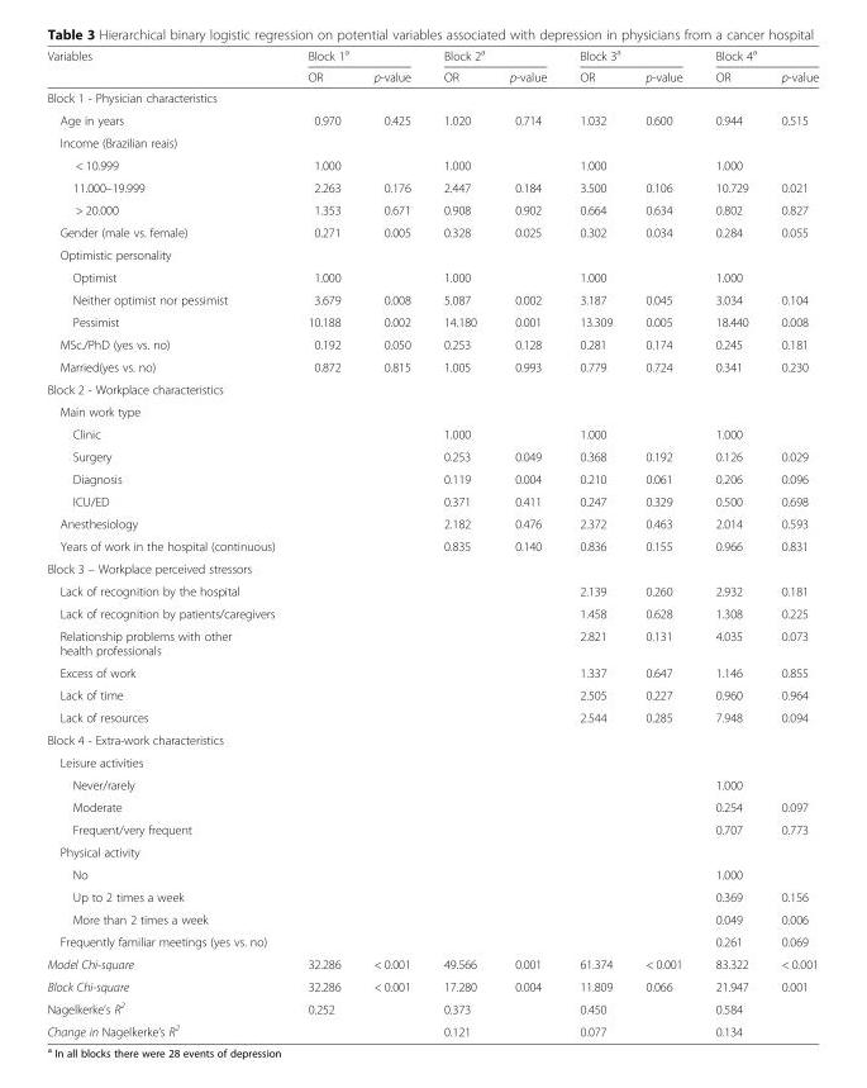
<table><thead><tr><td rowspan="2">Variables</td><td colspan="2">Block 1<sup>a</sup></td><td colspan="2">Block 2<sup>a</sup></td><td colspan="2">Block 3<sup>a</sup></td><td colspan="2">Block 4<sup>a</sup></td></tr><tr><td>OR</td><td>p-value</td><td>OR</td><td>p-value</td><td>OR</td><td>p-value</td><td>OR</td><td>p-value</td></tr></thead><tbody><tr><td colspan="9">Block 1 - Physician characteristics</td></tr><tr><td>Age in years</td><td>0.970</td><td>0.425</td><td>1.020</td><td>0.714</td><td>1.032</td><td>0.600</td><td>0.944</td><td>0.515</td></tr><tr><td colspan="9">Income (Brazilian reais)</td></tr><tr><td>&lt; 10.999</td><td>1.000</td><td></td><td>1.000</td><td></td><td>1.000</td><td></td><td>1.000</td><td></td></tr><tr><td>11.000–19.999</td><td>2.263</td><td>0.176</td><td>2.447</td><td>0.184</td><td>3.500</td><td>0.106</td><td>10.729</td><td>0.021</td></tr><tr><td>&gt; 20.000</td><td>1.353</td><td>0.671</td><td>0.908</td><td>0.902</td><td>0.664</td><td>0.634</td><td>0.802</td><td>0.827</td></tr><tr><td>Gender (male vs. female)</td><td>0.271</td><td>0.005</td><td>0.328</td><td>0.025</td><td>0.302</td><td>0.034</td><td>0.284</td><td>0.055</td></tr><tr><td colspan="9">Optimistic personality</td></tr><tr><td>Optimist</td><td>1.000</td><td></td><td>1.000</td><td></td><td>1.000</td><td></td><td>1.000</td><td></td></tr><tr><td>Neither optimist nor pessimist</td><td>3.679</td><td>0.008</td><td>5.087</td><td>0.002</td><td>3.187</td><td>0.045</td><td>3.034</td><td>0.104</td></tr><tr><td>Pessimist</td><td>10.188</td><td>0.002</td><td>14.180</td><td>0.001</td><td>13.309</td><td>0.005</td><td>18.440</td><td>0.008</td></tr><tr><td>MSc./PhD (yes vs. no)</td><td>0.192</td><td>0.050</td><td>0.253</td><td>0.128</td><td>0.281</td><td>0.174</td><td>0.245</td><td>0.181</td></tr><tr><td>Married(yes vs. no)</td><td>0.872</td><td>0.815</td><td>1.005</td><td>0.993</td><td>0.779</td><td>0.724</td><td>0.341</td><td>0.230</td></tr><tr><td colspan="9">Block 2 - Workplace characteristics</td></tr><tr><td colspan="9">Main work type</td></tr><tr><td>Clinic</td><td></td><td></td><td>1.000</td><td></td><td>1.000</td><td></td><td>1.000</td><td></td></tr><tr><td>Surgery</td><td></td><td></td><td>0.253</td><td>0.049</td><td>0.368</td><td>0.192</td><td>0.126</td><td>0.029</td></tr><tr><td>Diagnosis</td><td></td><td></td><td>0.119</td><td>0.004</td><td>0.210</td><td>0.061</td><td>0.206</td><td>0.096</td></tr><tr><td>ICU/ED</td><td></td><td></td><td>0.371</td><td>0.411</td><td>0.247</td><td>0.329</td><td>0.500</td><td>0.698</td></tr><tr><td>Anesthesiology</td><td></td><td></td><td>2.182</td><td>0.476</td><td>2.372</td><td>0.463</td><td>2.014</td><td>0.593</td></tr><tr><td>Years of work in the hospital (continuous)</td><td></td><td></td><td>0.835</td><td>0.140</td><td>0.836</td><td>0.155</td><td>0.966</td><td>0.831</td></tr><tr><td colspan="9">Block 3 – Workplace perceived stressors</td></tr><tr><td>Lack of recognition by the hospital</td><td></td><td></td><td></td><td></td><td>2.139</td><td>0.260</td><td>2.932</td><td>0.181</td></tr><tr><td>Lack of recognition by patients/caregivers</td><td></td><td></td><td></td><td></td><td>1.458</td><td>0.628</td><td>1.308</td><td>0.225</td></tr><tr><td>Relationship problems with other health professionals</td><td></td><td></td><td></td><td></td><td>2.821</td><td>0.131</td><td>4.035</td><td>0.073</td></tr><tr><td>Excess of work</td><td></td><td></td><td></td><td></td><td>1.337</td><td>0.647</td><td>1.146</td><td>0.855</td></tr><tr><td>Lack of time</td><td></td><td></td><td></td><td></td><td>2.505</td><td>0.227</td><td>0.960</td><td>0.964</td></tr><tr><td>Lack of resources</td><td></td><td></td><td></td><td></td><td>2.544</td><td>0.285</td><td>7.948</td><td>0.094</td></tr><tr><td colspan="9">Block 4 - Extra-work characteristics</td></tr><tr><td colspan="9">Leisure activities</td></tr><tr><td>Never/rarely</td><td></td><td></td><td></td><td></td><td></td><td></td><td>1.000</td><td></td></tr><tr><td>Moderate</td><td></td><td></td><td></td><td></td><td></td><td></td><td>0.254</td><td>0.097</td></tr><tr><td>Frequent/very frequent</td><td></td><td></td><td></td><td></td><td></td><td></td><td>0.707</td><td>0.773</td></tr><tr><td colspan="9">Physical activity</td></tr><tr><td>No</td><td></td><td></td><td></td><td></td><td></td><td></td><td>1.000</td><td></td></tr><tr><td>Up to 2 times a week</td><td></td><td></td><td></td><td></td><td></td><td></td><td>0.369</td><td>0.156</td></tr><tr><td>More than 2 times a week</td><td></td><td></td><td></td><td></td><td></td><td></td><td>0.049</td><td>0.006</td></tr><tr><td>Frequently familiar meetings (yes vs. no)</td><td></td><td></td><td></td><td></td><td></td><td></td><td>0.261</td><td>0.069</td></tr><tr><td>Model Chi-square</td><td>32.286</td><td>&lt; 0.001</td><td>49.566</td><td>0.001</td><td>61.374</td><td>&lt; 0.001</td><td>83.322</td><td>&lt; 0.001</td></tr><tr><td>Block Chi-square</td><td>32.286</td><td>&lt; 0.001</td><td>17.280</td><td>0.004</td><td>11.809</td><td>0.066</td><td>21.947</td><td>0.001</td></tr><tr><td>Nagelkerke’s R<sup>2</sup></td><td colspan="2">0.252</td><td colspan="2">0.373</td><td colspan="2">0.450</td><td colspan="2">0.584</td></tr><tr><td>Change in Nagelkerke’s R<sup>2</sup></td><td colspan="2"></td><td colspan="2">0.121</td><td colspan="2">0.077</td><td colspan="2">0.134</td></tr></tbody></table>